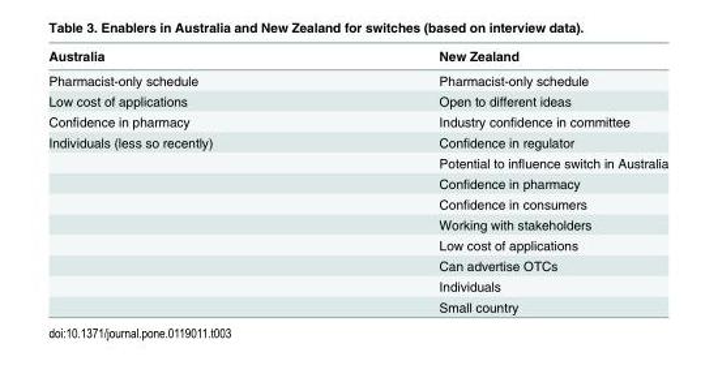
<table><thead><tr><td>Australia</td><td>New Zealand</td></tr></thead><tbody><tr><td>Pharmacist-only schedule</td><td>Pharmacist-only schedule</td></tr><tr><td>Low cost of applications</td><td>Open to different ideas</td></tr><tr><td>Confidence in pharmacy</td><td>Industry confidence in committee</td></tr><tr><td rowspan="9">Individuals (less so recently)</td><td>Confidence in regulator</td></tr><tr><td>Potential to influence switch in Australia</td></tr><tr><td>Confidence in pharmacy</td></tr><tr><td>Confidence in consumers</td></tr><tr><td>Working with stakeholders</td></tr><tr><td>Low cost of applications</td></tr><tr><td>Can advertise OTCs</td></tr><tr><td>Individuals</td></tr><tr><td>Small country</td></tr></tbody></table>